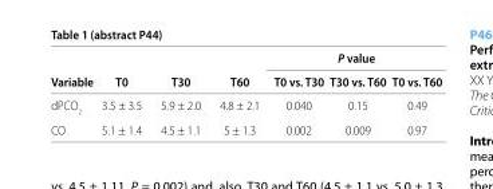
<table><thead><tr><td rowspan="2">Variable</td><td rowspan="2">T0</td><td rowspan="2">T30</td><td rowspan="2">T60</td><td colspan="3">P value</td></tr><tr><td>T0 vs. T30</td><td>T30 vs. T60</td><td>T0 vs. T60</td></tr></thead><tbody><tr><td>dPCO<sub>2</sub></td><td>3.5 ± 3.5</td><td>5.9 ± 2.0</td><td>4.8 ± 2.1</td><td>0.040</td><td>0.15</td><td>0.49</td></tr><tr><td>CO</td><td>5.1 ± 1.4</td><td>4.5 ± 1.1</td><td>5 ± 1.3</td><td>0.002</td><td>0.009</td><td>0.97</td></tr></tbody></table>